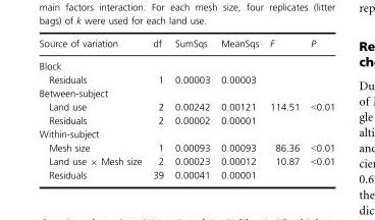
<table><thead><tr><td>Source of variation</td><td>df</td><td>SumSqs</td><td>MeanSqs</td><td>F</td><td>P</td></tr></thead><tbody><tr><td colspan="6">Block</td></tr><tr><td>Residuals</td><td>1</td><td>0.00003</td><td>0.00003</td><td></td><td></td></tr><tr><td colspan="6">Between-subject</td></tr><tr><td>Land use</td><td>2</td><td>0.00242</td><td>0.00121</td><td>114.51</td><td>&lt;0.01</td></tr><tr><td>Residuals</td><td>2</td><td>0.00002</td><td>0.00001</td><td></td><td></td></tr><tr><td colspan="6">Within-subject</td></tr><tr><td>Mesh size</td><td>1</td><td>0.00093</td><td>0.00093</td><td>86.36</td><td>&lt;0.01</td></tr><tr><td>Land use × Mesh size</td><td>2</td><td>0.00023</td><td>0.00012</td><td>10.87</td><td>&lt;0.01</td></tr><tr><td>Residuals</td><td>39</td><td>0.00041</td><td>0.00001</td><td></td><td></td></tr></tbody></table>